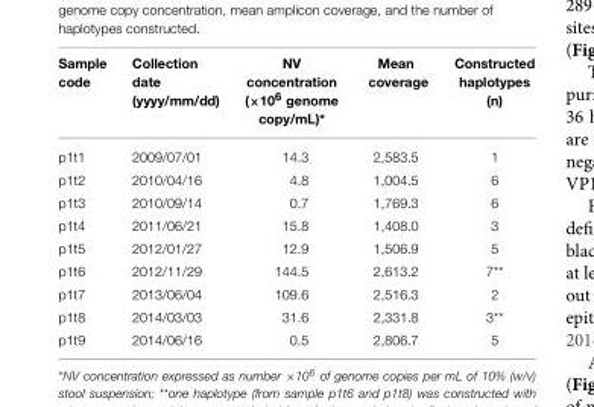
<table><thead><tr><td>Sample code</td><td>Collection date (yyyy/mm/dd)</td><td>NV concentration (×10<sup>6</sup> genome copy/mL)*</td><td>Mean coverage</td><td>Constructed haplotypes (n)</td></tr></thead><tbody><tr><td>p1t1</td><td>2009/07/01</td><td>14.3</td><td>2,583.5</td><td>1</td></tr><tr><td>p1t2</td><td>2010/04/16</td><td>4.8</td><td>1,004.5</td><td>6</td></tr><tr><td>p1t3</td><td>2010/09/14</td><td>0.7</td><td>1,769.3</td><td>6</td></tr><tr><td>p1t4</td><td>2011/06/21</td><td>15.8</td><td>1,408.0</td><td>3</td></tr><tr><td>p1t5</td><td>2012/01/27</td><td>12.9</td><td>1,506.9</td><td>5</td></tr><tr><td>p1t6</td><td>2012/11/29</td><td>144.5</td><td>2,613.2</td><td>7**</td></tr><tr><td>p1t7</td><td>2013/06/04</td><td>109.6</td><td>2,516.3</td><td>2</td></tr><tr><td>p1t8</td><td>2014/03/03</td><td>31.6</td><td>2,331.8</td><td>3**</td></tr><tr><td>p1t9</td><td>2014/06/16</td><td>0.5</td><td>2,806.7</td><td>5</td></tr></tbody></table>